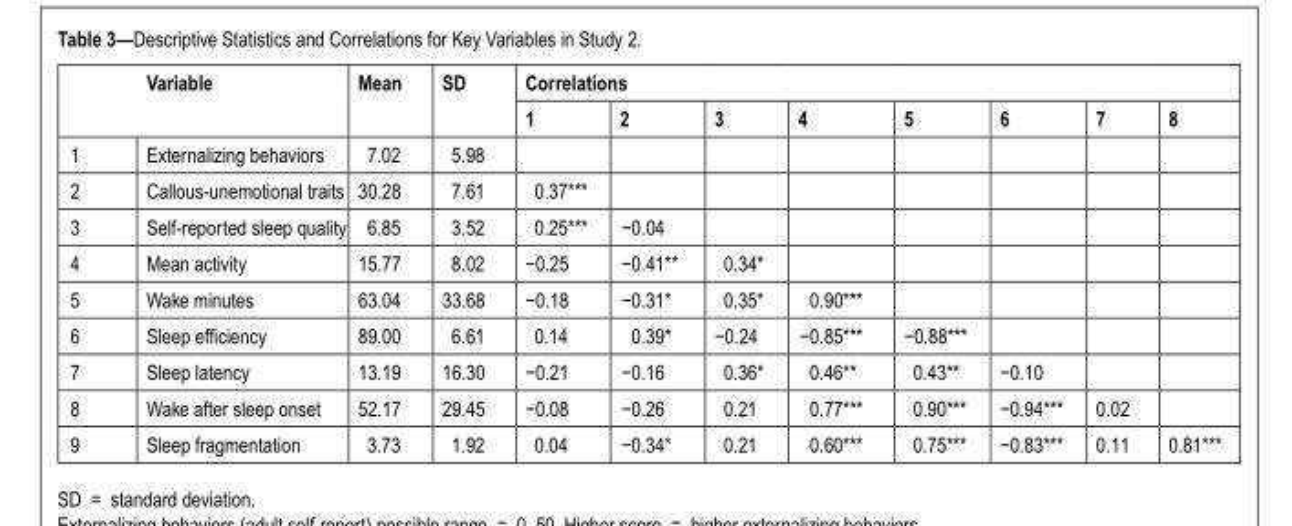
<table><thead><tr><td rowspan="2"></td><td rowspan="2">Variable</td><td rowspan="2">Mean</td><td rowspan="2">SD</td><td colspan="8">Correlations</td></tr><tr><td>1</td><td>2</td><td>3</td><td>4</td><td>5</td><td>6</td><td>7</td><td>8</td></tr></thead><tbody><tr><td>1</td><td>Externalizing behaviors</td><td>7.02</td><td>5.98</td><td></td><td></td><td></td><td></td><td></td><td></td><td></td><td></td></tr><tr><td>2</td><td>Callous-unemotional traits</td><td>30.28</td><td>7.61</td><td>0.37***</td><td></td><td></td><td></td><td></td><td></td><td></td><td></td></tr><tr><td>3</td><td>Self-reported sleep quality</td><td>6.85</td><td>3.52</td><td>0.25***</td><td>−0.04</td><td></td><td></td><td></td><td></td><td></td><td></td></tr><tr><td>4</td><td>Mean activity</td><td>15.77</td><td>8.02</td><td>−0.25</td><td>−0.41**</td><td>0.34*</td><td></td><td></td><td></td><td></td><td></td></tr><tr><td>5</td><td>Wake minutes</td><td>63.04</td><td>33.68</td><td>−0.18</td><td>−0.31*</td><td>0.35*</td><td>0.90***</td><td></td><td></td><td></td><td></td></tr><tr><td>6</td><td>Sleep efficiency</td><td>89.00</td><td>6.61</td><td>0.14</td><td>0.39*</td><td>−0.24</td><td>−0.85***</td><td>−0.88***</td><td></td><td></td><td></td></tr><tr><td>7</td><td>Sleep latency</td><td>13.19</td><td>16.30</td><td>−0.21</td><td>−0.16</td><td>0.36*</td><td>0.46**</td><td>0.43**</td><td>−0.10</td><td></td><td></td></tr><tr><td>8</td><td>Wake after sleep onset</td><td>52.17</td><td>29.45</td><td>−0.08</td><td>−0.26</td><td>0.21</td><td>0.77***</td><td>0.90***</td><td>−0.94***</td><td>0.02</td><td></td></tr><tr><td>9</td><td>Sleep fragmentation</td><td>3.73</td><td>1.92</td><td>0.04</td><td>−0.34*</td><td>0.21</td><td>0.60***</td><td>0.75***</td><td>−0.83***</td><td>0.11</td><td>0.81***</td></tr></tbody></table>